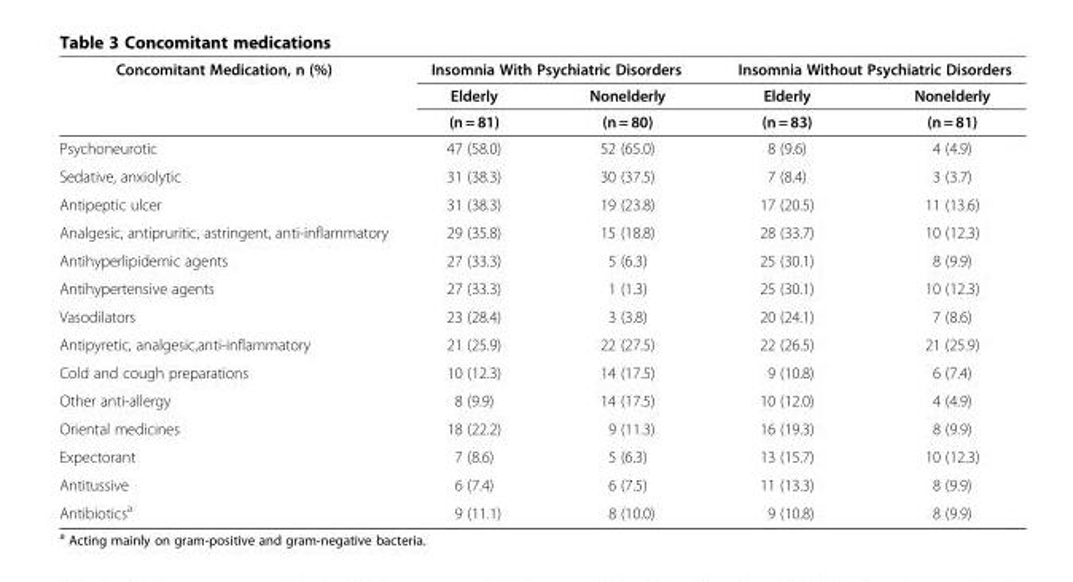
<table><thead><tr><td rowspan="3">Concomitant Medication, n (%)</td><td colspan="2">Insomnia With Psychiatric Disorders</td><td colspan="2">Insomnia Without Psychiatric Disorders</td></tr><tr><td rowspan="2">Elderly (n = 81)</td><td rowspan="2">Nonelderly (n = 80)</td><td rowspan="2">Elderly (n = 83)</td><td rowspan="2">Nonelderly (n = 81)</td></tr><tr></tr></thead><tbody><tr><td>Psychoneurotic</td><td>47 (58.0)</td><td>52 (65.0)</td><td>8 (9.6)</td><td>4 (4.9)</td></tr><tr><td>Sedative, anxiolytic</td><td>31 (38.3)</td><td>30 (37.5)</td><td>7 (8.4)</td><td>3 (3.7)</td></tr><tr><td>Antipeptic ulcer</td><td>31 (38.3)</td><td>19 (23.8)</td><td>17 (20.5)</td><td>11 (13.6)</td></tr><tr><td>Analgesic, antipruritic, astringent, anti-inflammatory</td><td>29 (35.8)</td><td>15 (18.8)</td><td>28 (33.7)</td><td>10 (12.3)</td></tr><tr><td>Antihyperlipidemic agents</td><td>27 (33.3)</td><td>5 (6.3)</td><td>25 (30.1)</td><td>8 (9.9)</td></tr><tr><td>Antihypertensive agents</td><td>27 (33.3)</td><td>1 (1.3)</td><td>25 (30.1)</td><td>10 (12.3)</td></tr><tr><td>Vasodilators</td><td>23 (28.4)</td><td>3 (3.8)</td><td>20 (24.1)</td><td>7 (8.6)</td></tr><tr><td>Antipyretic, analgesic,anti-inflammatory</td><td>21 (25.9)</td><td>22 (27.5)</td><td>22 (26.5)</td><td>21 (25.9)</td></tr><tr><td>Cold and cough preparations</td><td>10 (12.3)</td><td>14 (17.5)</td><td>9 (10.8)</td><td>6 (7.4)</td></tr><tr><td>Other anti-allergy</td><td>8 (9.9)</td><td>14 (17.5)</td><td>10 (12.0)</td><td>4 (4.9)</td></tr><tr><td>Oriental medicines</td><td>18 (22.2)</td><td>9 (11.3)</td><td>16 (19.3)</td><td>8 (9.9)</td></tr><tr><td>Expectorant</td><td>7 (8.6)</td><td>5 (6.3)</td><td>13 (15.7)</td><td>10 (12.3)</td></tr><tr><td>Antitussive</td><td>6 (7.4)</td><td>6 (7.5)</td><td>11 (13.3)</td><td>8 (9.9)</td></tr><tr><td>Antibiotics<sup>a</sup></td><td>9 (11.1)</td><td>8 (10.0)</td><td>9 (10.8)</td><td>8 (9.9)</td></tr></tbody></table>